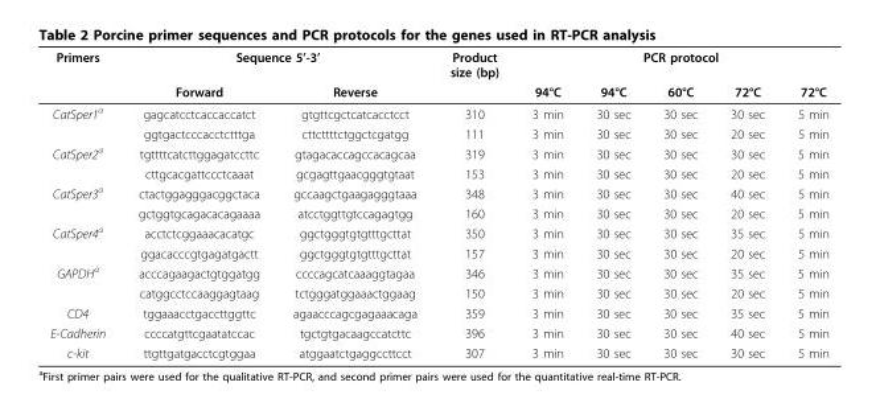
<table><thead><tr><td rowspan="2">Primers</td><td colspan="2">Sequence 5’-3’</td><td rowspan="2">Product size (bp)</td><td colspan="5">PCR protocol</td></tr><tr><td>Forward</td><td>Reverse</td><td>94°C</td><td>94°C</td><td>60°C</td><td>72°C</td><td>72°C</td></tr></thead><tbody><tr><td rowspan="2">CatSper1<sup>a</sup></td><td>gagcatcctcaccaccatct</td><td>gtgttcgctcatcacctcct</td><td>310</td><td>3 min</td><td>30 sec</td><td>30 sec</td><td>30 sec</td><td>5 min</td></tr><tr><td>ggtgactcccacctctttga</td><td>cttcttttctggctcgatgg</td><td>111</td><td>3 min</td><td>30 sec</td><td>30 sec</td><td>20 sec</td><td>5 min</td></tr><tr><td rowspan="2">CatSper2<sup>a</sup></td><td>tgttttcatcttggagatccttc</td><td>gtagacaccagccacagcaa</td><td>319</td><td>3 min</td><td>30 sec</td><td>30 sec</td><td>30 sec</td><td>5 min</td></tr><tr><td>cttgcacgattccctcaaat</td><td>gcgagttgaacgggtgtaat</td><td>153</td><td>3 min</td><td>30 sec</td><td>30 sec</td><td>20 sec</td><td>5 min</td></tr><tr><td rowspan="2">CatSper3<sup>a</sup></td><td>ctactggagggacggctaca</td><td>gccaagctgaagagggtaaa</td><td>348</td><td>3 min</td><td>30 sec</td><td>30 sec</td><td>40 sec</td><td>5 min</td></tr><tr><td>gctggtgcagacacagaaaa</td><td>atcctggttgtccagagtgg</td><td>160</td><td>3 min</td><td>30 sec</td><td>30 sec</td><td>20 sec</td><td>5 min</td></tr><tr><td rowspan="2">CatSper4<sup>a</sup></td><td>acctctcggaaacacatgc</td><td>ggctgggtgtgtttgcttat</td><td>350</td><td>3 min</td><td>30 sec</td><td>30 sec</td><td>35 sec</td><td>5 min</td></tr><tr><td>ggacacccgtgagatgactt</td><td>ggctgggtgtgtttgcttat</td><td>157</td><td>3 min</td><td>30 sec</td><td>30 sec</td><td>20 sec</td><td>5 min</td></tr><tr><td rowspan="2">GAPDH<sup>a</sup></td><td>acccagaagactgtggatgg</td><td>ccccagcatcaaaggtagaa</td><td>346</td><td>3 min</td><td>30 sec</td><td>30 sec</td><td>35 sec</td><td>5 min</td></tr><tr><td>catggcctccaaggagtaag</td><td>tctgggatggaaactggaag</td><td>150</td><td>3 min</td><td>30 sec</td><td>30 sec</td><td>20 sec</td><td>5 min</td></tr><tr><td>CD4</td><td>tggaaacctgaccttggttc</td><td>agaacccagcgagaaacaga</td><td>359</td><td>3 min</td><td>30 sec</td><td>30 sec</td><td>35 sec</td><td>5 min</td></tr><tr><td>E-Cadherin</td><td>ccccatgttcgaatatccac</td><td>tgctgtgacaagccatcttc</td><td>396</td><td>3 min</td><td>30 sec</td><td>30 sec</td><td>40 sec</td><td>5 min</td></tr><tr><td>c-kit</td><td>ttgttgatgacctcgtggaa</td><td>atggaatctgaggccttcct</td><td>307</td><td>3 min</td><td>30 sec</td><td>30 sec</td><td>30 sec</td><td>5 min</td></tr></tbody></table>